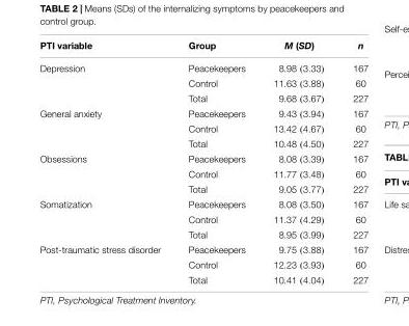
<table><thead><tr><td>PTI variable</td><td>Group</td><td>M (SD)</td><td>n</td></tr></thead><tbody><tr><td rowspan="3">Depression</td><td>Peacekeepers</td><td>8.98 (3.33)</td><td>167</td></tr><tr><td>Control</td><td>11.63 (3.88)</td><td>60</td></tr><tr><td>Total</td><td>9.68 (3.67)</td><td>227</td></tr><tr><td rowspan="3">General anxiety</td><td>Peacekeepers</td><td>9.43 (3.94)</td><td>167</td></tr><tr><td>Control</td><td>13.42 (4.67)</td><td>60</td></tr><tr><td>Total</td><td>10.48 (4.50)</td><td>227</td></tr><tr><td rowspan="3">Obsessions</td><td>Peacekeepers</td><td>8.08 (3.39)</td><td>167</td></tr><tr><td>Control</td><td>11.77 (3.48)</td><td>60</td></tr><tr><td>Total</td><td>9.05 (3.77)</td><td>227</td></tr><tr><td rowspan="3">Somatization</td><td>Peacekeepers</td><td>8.08 (3.50)</td><td>167</td></tr><tr><td>Control</td><td>11.37 (4.29)</td><td>60</td></tr><tr><td>Total</td><td>8.95 (3.99)</td><td>227</td></tr><tr><td rowspan="3">Post-traumatic stress disorder</td><td>Peacekeepers</td><td>9.75 (3.88)</td><td>167</td></tr><tr><td>Control</td><td>12.23 (3.93)</td><td>60</td></tr><tr><td>Total</td><td>10.41 (4.04)</td><td>227</td></tr></tbody></table>